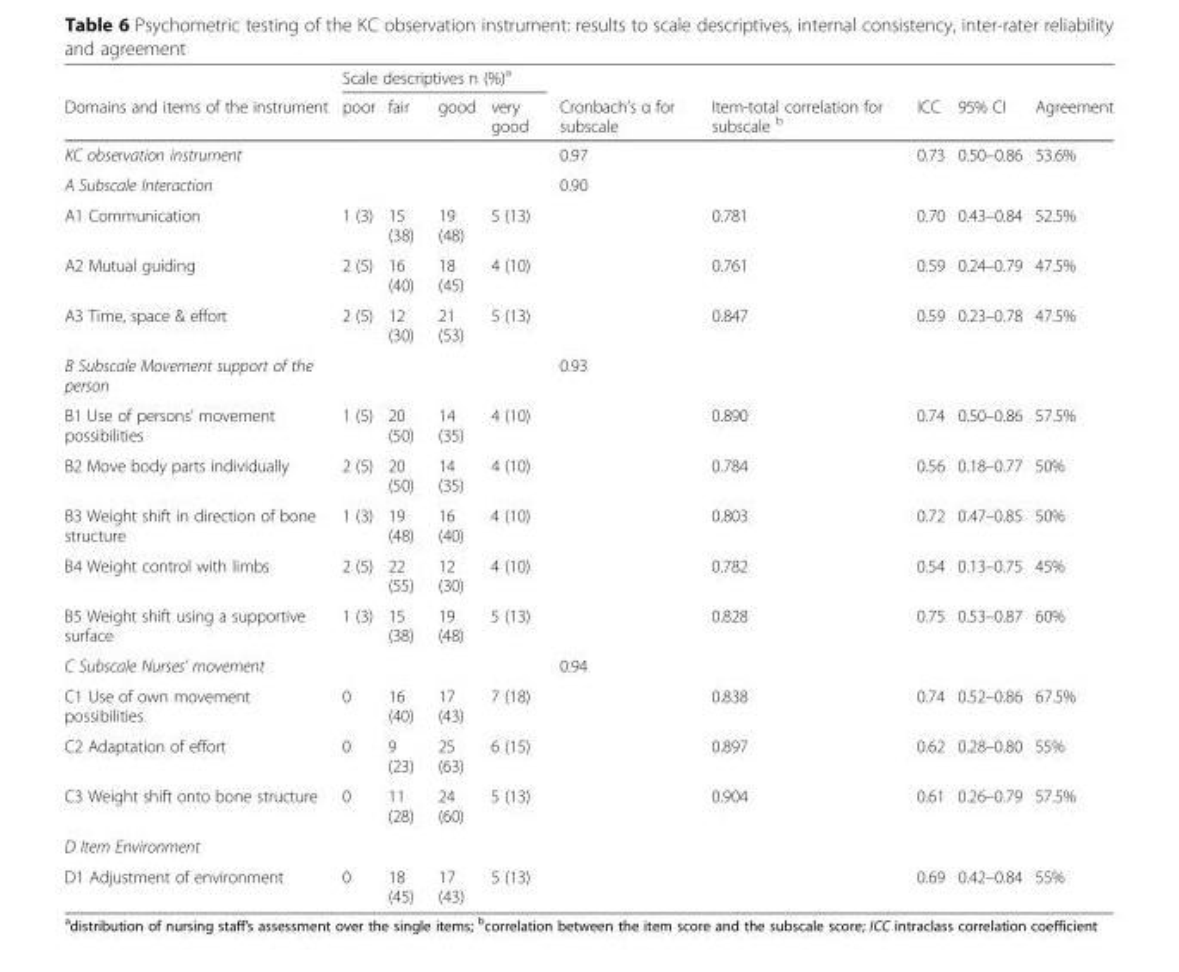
<table><thead><tr><td rowspan="2">Domains and items of the instrument</td><td colspan="4">Scale descriptives n (%)<sup>a</sup></td><td rowspan="2">Cronbach’s α for subscale</td><td rowspan="2">Item-total correlation for subscale <sup>b</sup></td><td rowspan="2">ICC</td><td rowspan="2">95% CI</td><td rowspan="2">Agreement</td></tr><tr><td>poor</td><td>fair</td><td>good</td><td>very good</td></tr></thead><tbody><tr><td>KC observation instrument</td><td></td><td></td><td></td><td></td><td>0.97</td><td></td><td>0.73</td><td>0.50–0.86</td><td>53.6%</td></tr><tr><td>A Subscale Interaction</td><td></td><td></td><td></td><td></td><td>0.90</td><td></td><td></td><td></td><td></td></tr><tr><td>A1 Communication</td><td>1 (3)</td><td>15 (38)</td><td>19 (48)</td><td>5 (13)</td><td></td><td>0.781</td><td>0.70</td><td>0.43–0.84</td><td>52.5%</td></tr><tr><td>A2 Mutual guiding</td><td>2 (5)</td><td>16 (40)</td><td>18 (45)</td><td>4 (10)</td><td></td><td>0.761</td><td>0.59</td><td>0.24–0.79</td><td>47.5%</td></tr><tr><td>A3 Time, space &amp; effort</td><td>2 (5)</td><td>12 (30)</td><td>21 (53)</td><td>5 (13)</td><td></td><td>0.847</td><td>0.59</td><td>0.23–0.78</td><td>47.5%</td></tr><tr><td>B Subscale Movement support of the person</td><td></td><td></td><td></td><td></td><td>0.93</td><td></td><td></td><td></td><td></td></tr><tr><td>B1 Use of persons’ movement possibilities</td><td>1 (5)</td><td>20 (50)</td><td>14 (35)</td><td>4 (10)</td><td></td><td>0.890</td><td>0.74</td><td>0.50–0.86</td><td>57.5%</td></tr><tr><td>B2 Move body parts individually</td><td>2 (5)</td><td>20 (50)</td><td>14 (35)</td><td>4 (10)</td><td></td><td>0.784</td><td>0.56</td><td>0.18–0.77</td><td>50%</td></tr><tr><td>B3 Weight shift in direction of bone structure</td><td>1 (3)</td><td>19 (48)</td><td>16 (40)</td><td>4 (10)</td><td></td><td>0.803</td><td>0.72</td><td>0.47–0.85</td><td>50%</td></tr><tr><td>B4 Weight control with limbs</td><td>2 (5)</td><td>22 (55)</td><td>12 (30)</td><td>4 (10)</td><td></td><td>0.782</td><td>0.54</td><td>0.13–0.75</td><td>45%</td></tr><tr><td>B5 Weight shift using a supportive surface</td><td>1 (3)</td><td>15 (38)</td><td>19 (48)</td><td>5 (13)</td><td></td><td>0.828</td><td>0.75</td><td>0.53–0.87</td><td>60%</td></tr><tr><td>C Subscale Nurses’ movement</td><td></td><td></td><td></td><td></td><td>0.94</td><td></td><td></td><td></td><td></td></tr><tr><td>C1 Use of own movement possibilities</td><td>0</td><td>16 (40)</td><td>17 (43)</td><td>7 (18)</td><td></td><td>0.838</td><td>0.74</td><td>0.52–0.86</td><td>67.5%</td></tr><tr><td>C2 Adaptation of effort</td><td>0</td><td>9 (23)</td><td>25 (63)</td><td>6 (15)</td><td></td><td>0.897</td><td>0.62</td><td>0.28–0.80</td><td>55%</td></tr><tr><td>C3 Weight shift onto bone structure</td><td>0</td><td>11 (28)</td><td>24 (60)</td><td>5 (13)</td><td></td><td>0.904</td><td>0.61</td><td>0.26–0.79</td><td>57.5%</td></tr><tr><td colspan="10">D Item Environment</td></tr><tr><td>D1 Adjustment of environment</td><td>0</td><td>18 (45)</td><td>17 (43)</td><td>5 (13)</td><td></td><td></td><td>0.69</td><td>0.42–0.84</td><td>55%</td></tr></tbody></table>